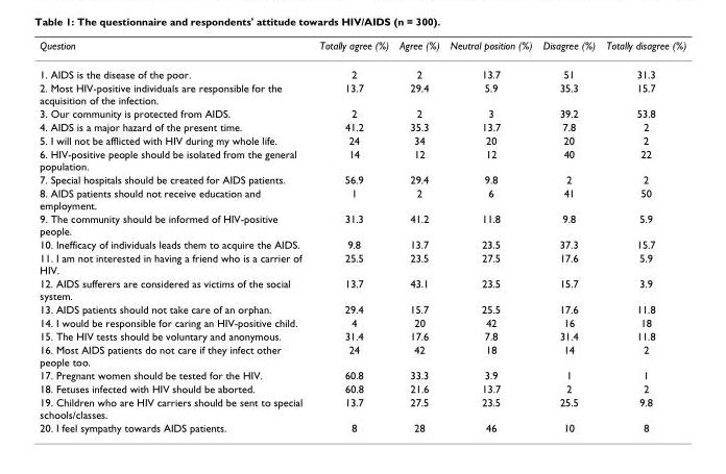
<table><thead><tr><td>Question</td><td>Totally agree (%)</td><td>Agree (%)</td><td>Neutral position (%)</td><td>Disagree (%)</td><td>Totally disagree (%)</td></tr></thead><tbody><tr><td>1. AIDS is the disease of the poor.</td><td>2</td><td>2</td><td>13.7</td><td>51</td><td>31.3</td></tr><tr><td>2. Most HIV-positive individuals are responsible for the acquisition of the infection.</td><td>13.7</td><td>29.4</td><td>5.9</td><td>35.3</td><td>15.7</td></tr><tr><td>3. Our community is protected from AIDS.</td><td>2</td><td>2</td><td>3</td><td>39.2</td><td>53.8</td></tr><tr><td>4. AIDS is a major hazard of the present time.</td><td>41.2</td><td>35.3</td><td>13.7</td><td>7.8</td><td>2</td></tr><tr><td>5. I will not be afflicted with HIV during my whole life.</td><td>24</td><td>34</td><td>20</td><td>20</td><td>2</td></tr><tr><td>6. HIV-positive people should be isolated from the general population.</td><td>14</td><td>12</td><td>12</td><td>40</td><td>22</td></tr><tr><td>7. Special hospitals should be created for AIDS patients.</td><td>56.9</td><td>29.4</td><td>9.8</td><td>2</td><td>2</td></tr><tr><td>8. AIDS patients should not receive education and employment.</td><td>1</td><td>2</td><td>6</td><td>41</td><td>50</td></tr><tr><td>9. The community should be informed of HIV-positive people.</td><td>31.3</td><td>41.2</td><td>11.8</td><td>9.8</td><td>5.9</td></tr><tr><td>10. Inefficacy of individuals leads them to acquire the AIDS.</td><td>9.8</td><td>13.7</td><td>23.5</td><td>37.3</td><td>15.7</td></tr><tr><td>11. I am not interested in having a friend who is a carrier of HIV.</td><td>25.5</td><td>23.5</td><td>27.5</td><td>17.6</td><td>5.9</td></tr><tr><td>12. AIDS sufferers are considered as victims of the social system.</td><td>13.7</td><td>43.1</td><td>23.5</td><td>15.7</td><td>3.9</td></tr><tr><td>13. AIDS patients should not take care of an orphan.</td><td>29.4</td><td>15.7</td><td>25.5</td><td>17.6</td><td>11.8</td></tr><tr><td>14. I would be responsible for caring an HIV-positive child.</td><td>4</td><td>20</td><td>42</td><td>16</td><td>18</td></tr><tr><td>15. The HIV tests should be voluntary and anonymous.</td><td>31.4</td><td>17.6</td><td>7.8</td><td>31.4</td><td>11.8</td></tr><tr><td>16. Most AIDS patients do not care if they infect other people too.</td><td>24</td><td>42</td><td>18</td><td>14</td><td>2</td></tr><tr><td>17. Pregnant women should be tested for the HIV.</td><td>60.8</td><td>33.3</td><td>3.9</td><td>1</td><td>1</td></tr><tr><td>18. Fetuses infected with HIV should be aborted.</td><td>60.8</td><td>21.6</td><td>13.7</td><td>2</td><td>2</td></tr><tr><td>19. Children who are HIV carriers should be sent to special schools/classes.</td><td>13.7</td><td>27.5</td><td>23.5</td><td>25.5</td><td>9.8</td></tr><tr><td>20. I feel sympathy towards AIDS patients.</td><td>8</td><td>28</td><td>46</td><td>10</td><td>8</td></tr></tbody></table>